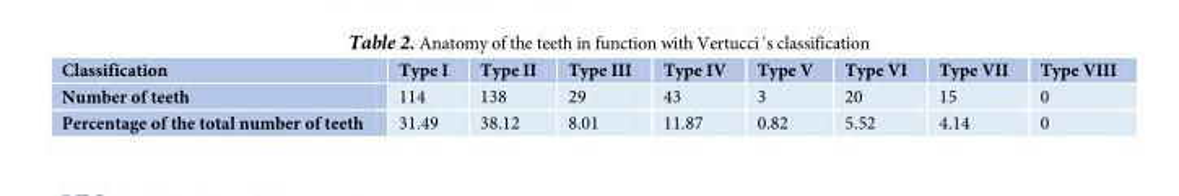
<table><thead><tr><td>Classification</td><td>Type I</td><td>Type II</td><td>Type III</td><td>Type IV</td><td>Type V</td><td>Type VI</td><td>Type VII</td><td>Type VIII</td></tr></thead><tbody><tr><td>Number of teeth</td><td>114</td><td>138</td><td>29</td><td>43</td><td>3</td><td>20</td><td>15</td><td>0</td></tr><tr><td>Percentage of the total number of teeth</td><td>31.49</td><td>38.12</td><td>8.01</td><td>11.87</td><td>0.82</td><td>5.52</td><td>4.14</td><td>0</td></tr></tbody></table>